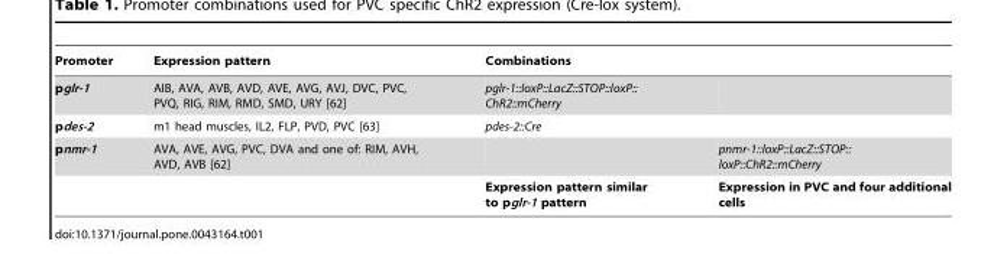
<table><thead><tr><td rowspan="2">Promoter pglr-1</td><td rowspan="2">Expression pattern AIB, AVA, AVB, AVD, AVE, AVG, AVJ, DVC, PVC, PVQ, RIG, RIM, RMD, SMD, URY [62]</td><td colspan="2">Combinations</td></tr><tr><td>pglr-1::loxP::LacZ::STOP::loxP:: ChR2::mCherry</td><td></td></tr></thead><tbody><tr><td>pdes-2</td><td>m1 head muscles, IL2, FLP, PVD, PVC [63]</td><td>pdes-2::Cre</td><td></td></tr><tr><td rowspan="2">pnmr-1</td><td>AVA, AVE, AVG, PVC, DVA and one of: RIM, AVH, AVD, AVB [62]</td><td></td><td>pnmr-1::loxP::LacZ::STOP:: loxP::ChR2::mCherry</td></tr><tr><td></td><td>Expression pattern similar to pglr-1 pattern</td><td>Expression in PVC and four additional cells</td></tr></tbody></table>